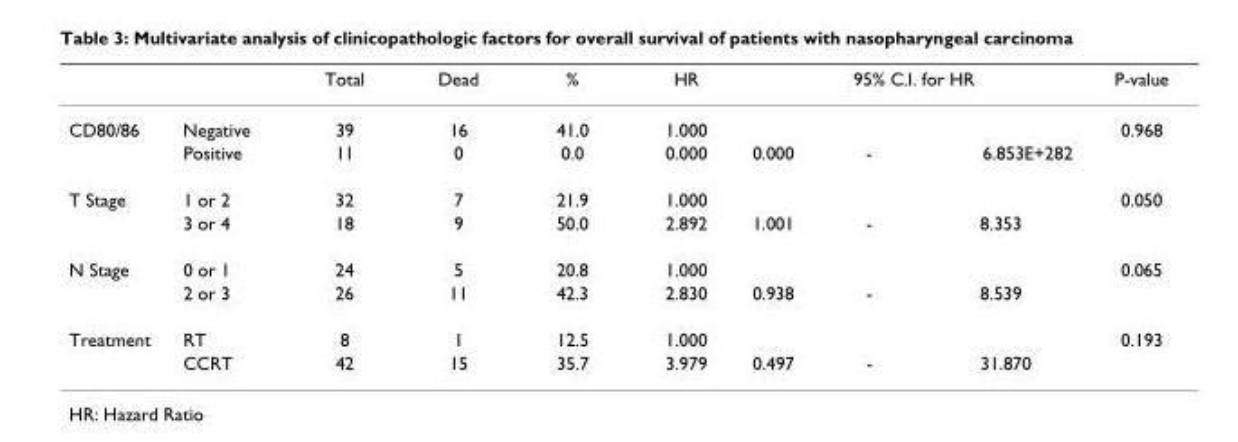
<table><thead><tr><td rowspan="2">CD80/86</td><td rowspan="2">Negative</td><td rowspan="2">Total 39</td><td rowspan="2">Dead 16</td><td rowspan="2">% 41.0</td><td rowspan="2">HR 1.000</td><td colspan="3">95% C.I. for HR</td><td rowspan="2">P-value 0.968</td></tr><tr><td></td><td></td><td></td></tr></thead><tbody><tr><td></td><td>Positive</td><td>11</td><td>0</td><td>0.0</td><td>0.000</td><td>0.000</td><td>-</td><td>6.853E+282</td><td></td></tr><tr><td rowspan="2">T Stage</td><td>1 or 2</td><td>32</td><td>7</td><td>21.9</td><td>1.000</td><td></td><td></td><td></td><td>0.050</td></tr><tr><td>3 or 4</td><td>18</td><td>9</td><td>50.0</td><td>2.892</td><td>1.001</td><td>-</td><td>8.353</td><td></td></tr><tr><td rowspan="2">N Stage</td><td>0 or 1</td><td>24</td><td>5</td><td>20.8</td><td>1.000</td><td></td><td></td><td></td><td>0.065</td></tr><tr><td>2 or 3</td><td>26</td><td>11</td><td>42.3</td><td>2.830</td><td>0.938</td><td>-</td><td>8.539</td><td></td></tr><tr><td rowspan="2">Treatment</td><td>RT</td><td>8</td><td>1</td><td>12.5</td><td>1.000</td><td></td><td></td><td></td><td>0.193</td></tr><tr><td>CCRT</td><td>42</td><td>15</td><td>35.7</td><td>3.979</td><td>0.497</td><td>-</td><td>31.870</td><td></td></tr></tbody></table>